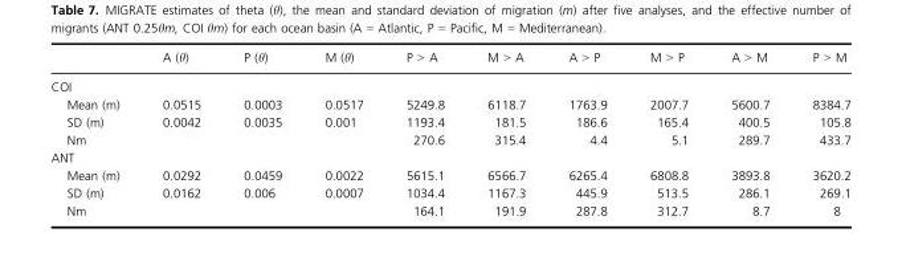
<table><thead><tr><td></td><td>A (θ)</td><td>P (θ)</td><td>M (θ)</td><td>P &gt; A</td><td>M &gt; A</td><td>A &gt; P</td><td>M &gt; P</td><td>A &gt; M</td><td>P &gt; M</td></tr></thead><tbody><tr><td colspan="10">COI</td></tr><tr><td>Mean (m)</td><td>0.0515</td><td>0.0003</td><td>0.0517</td><td>5249.8</td><td>6118.7</td><td>1763.9</td><td>2007.7</td><td>5600.7</td><td>8384.7</td></tr><tr><td>SD (m)</td><td>0.0042</td><td>0.0035</td><td>0.001</td><td>1193.4</td><td>181.5</td><td>186.6</td><td>165.4</td><td>400.5</td><td>105.8</td></tr><tr><td>Nm</td><td></td><td></td><td></td><td>270.6</td><td>315.4</td><td>4.4</td><td>5.1</td><td>289.7</td><td>433.7</td></tr><tr><td colspan="10">ANT</td></tr><tr><td>Mean (m)</td><td>0.0292</td><td>0.0459</td><td>0.0022</td><td>5615.1</td><td>6566.7</td><td>6265.4</td><td>6808.8</td><td>3893.8</td><td>3620.2</td></tr><tr><td>SD (m)</td><td>0.0162</td><td>0.006</td><td>0.0007</td><td>1034.4</td><td>1167.3</td><td>445.9</td><td>513.5</td><td>286.1</td><td>269.1</td></tr><tr><td>Nm</td><td></td><td></td><td></td><td>164.1</td><td>191.9</td><td>287.8</td><td>312.7</td><td>8.7</td><td>8</td></tr></tbody></table>